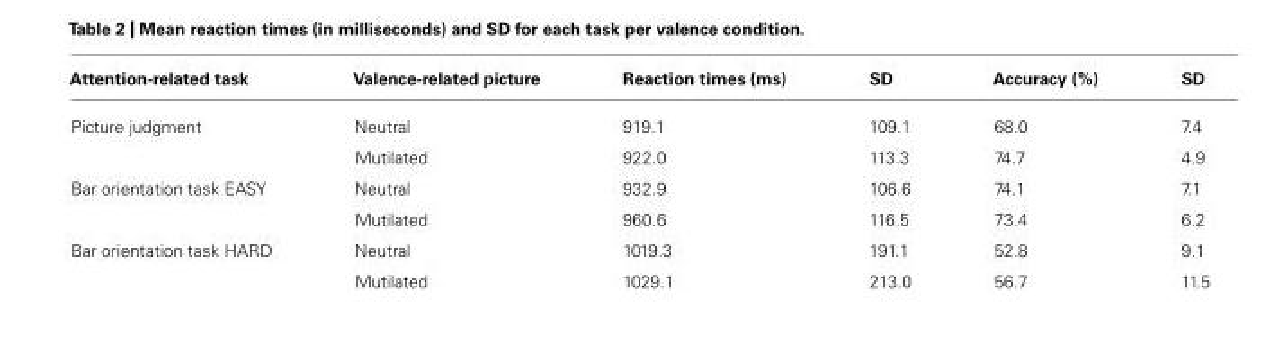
<table><thead><tr><td>Attention-related task</td><td>Valence-related picture</td><td>Reaction times (ms)</td><td>SD</td><td>Accuracy (%)</td><td>SD</td></tr></thead><tbody><tr><td rowspan="2">Picture judgment</td><td>Neutral</td><td>919.1</td><td>109.1</td><td>68.0</td><td>7.4</td></tr><tr><td>Mutilated</td><td>922.0</td><td>113.3</td><td>74.7</td><td>4.9</td></tr><tr><td rowspan="2">Bar orientation task EASY</td><td>Neutral</td><td>932.9</td><td>106.6</td><td>74.1</td><td>7.1</td></tr><tr><td>Mutilated</td><td>960.6</td><td>116.5</td><td>73.4</td><td>6.2</td></tr><tr><td rowspan="2">Bar orientation task HARD</td><td>Neutral</td><td>1019.3</td><td>191.1</td><td>52.8</td><td>9.1</td></tr><tr><td>Mutilated</td><td>1029.1</td><td>213.0</td><td>56.7</td><td>11.5</td></tr></tbody></table>